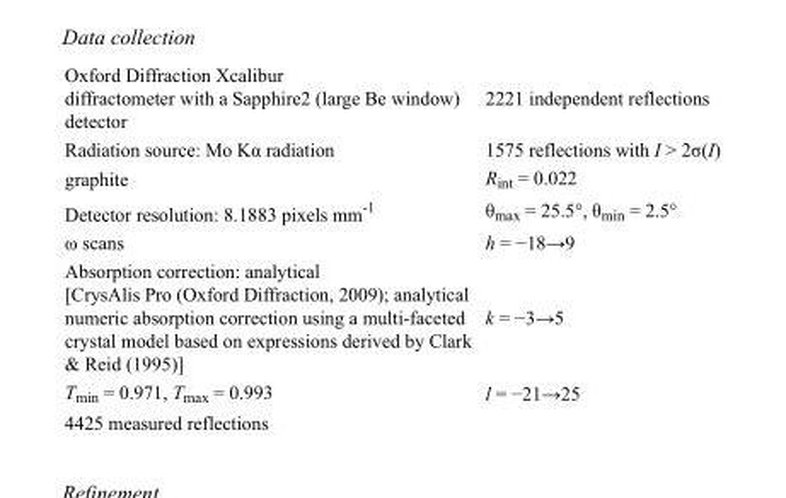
<table><tbody><tr><td>Oxford Diffraction Xcalibur diffractometer with a Sapphire2 (large Be window) detector</td><td>2221 independent reflections</td></tr><tr><td>Radiation source: Mo Kα radiation</td><td>1575 reflections with I &gt; 2σ(I)</td></tr><tr><td>graphite</td><td>R<sub>int</sub> = 0.022</td></tr><tr><td>Detector resolution: 8.1883 pixels mm<sup>-1</sup></td><td>θ<sub>max</sub> = 25.5°, θ<sub>min</sub> = 2.5°</td></tr><tr><td>ω scans</td><td>h = −18→9</td></tr><tr><td>Absorption correction: analytical [CrysAlis Pro (Oxford Diffraction, 2009); analytical numeric absorption correction using a multi-faceted crystal model based on expressions derived by Clark &amp; Reid (1995)]</td><td>k = −3→5</td></tr><tr><td>T<sub>min</sub> = 0.971, T<sub>max</sub> = 0.993</td><td>l = −21→25</td></tr><tr><td>4425 measured reflections</td><td></td></tr></tbody></table>